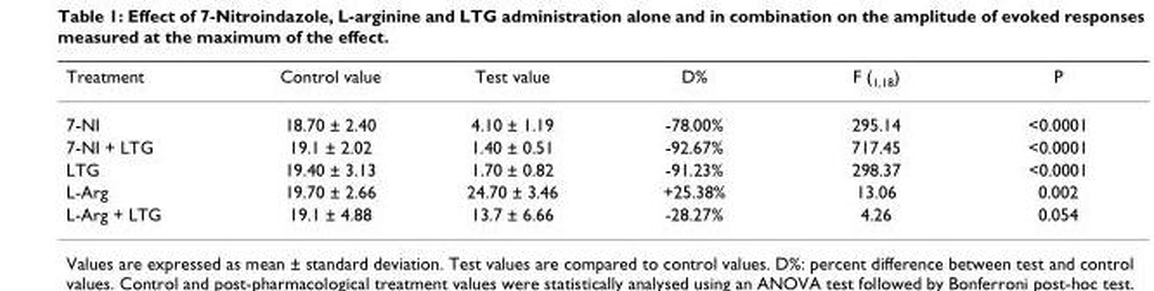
<table><thead><tr><td>Treatment</td><td>Control value</td><td>Test value</td><td>D%</td><td>F (<sub>1,18</sub>)</td><td>P</td></tr></thead><tbody><tr><td>7-NI</td><td>18.70 ± 2.40</td><td>4.10 ± 1.19</td><td>-78.00%</td><td>295.14</td><td>&lt;0.0001</td></tr><tr><td>7-NI + LTG</td><td>19.1 ± 2.02</td><td>1.40 ± 0.51</td><td>-92.67%</td><td>717.45</td><td>&lt;0.0001</td></tr><tr><td>LTG</td><td>19.40 ± 3.13</td><td>1.70 ± 0.82</td><td>-91.23%</td><td>298.37</td><td>&lt;0.0001</td></tr><tr><td>L-Arg</td><td>19.70 ± 2.66</td><td>24.70 ± 3.46</td><td>+25.38%</td><td>13.06</td><td>0.002</td></tr><tr><td>L-Arg + LTG</td><td>19.1 ± 4.88</td><td>13.7 ± 6.66</td><td>-28.27%</td><td>4.26</td><td>0.054</td></tr></tbody></table>